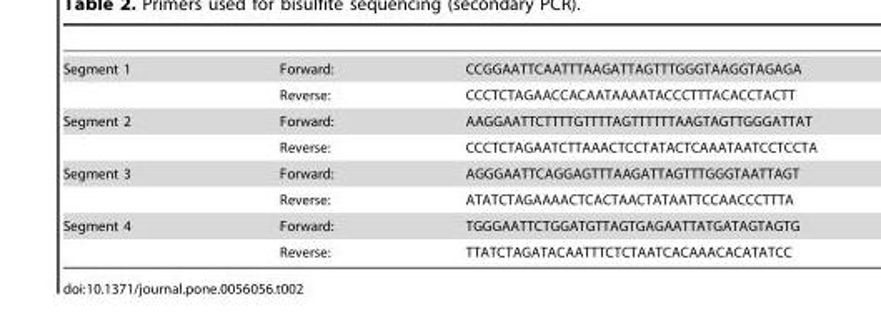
<table><tbody><tr><td rowspan="2">Segment 1</td><td>Forward:</td><td>CCGGAATTCAATTTAAGATTAGTTTGGGTAAGGTAGAGA</td></tr><tr><td>Reverse:</td><td>CCCTCTAGAACCACAATAAAATACCCTTTACACCTACTT</td></tr><tr><td rowspan="2">Segment 2</td><td>Forward:</td><td>AAGGAATTCTTTTGTTTTAGTTTTTTAAGTAGTTGGGATTAT</td></tr><tr><td>Reverse:</td><td>CCCTCTAGAATCTTAAACTCCTATACTCAAATAATCCTCCTA</td></tr><tr><td rowspan="2">Segment 3</td><td>Forward:</td><td>AGGGAATTCAGGAGTTTAAGATTAGTTTGGGTAATTAGT</td></tr><tr><td>Reverse:</td><td>ATATCTAGAAAACTCACTAACTATAATTCCAACCCTTTA</td></tr><tr><td rowspan="2">Segment 4</td><td>Forward:</td><td>TGGGAATTCTGGATGTTAGTGAGAATTATGATAGTAGTG</td></tr><tr><td>Reverse:</td><td>TTATCTAGATACAATTTCTCTAATCACAAACACATATCC</td></tr></tbody></table>